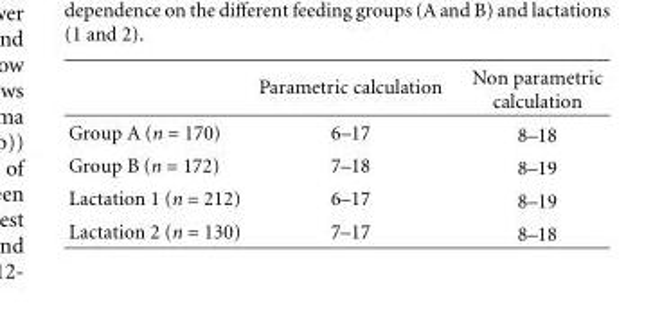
<table><thead><tr><td></td><td>Parametric calculation</td><td>Non parametric calculation</td></tr></thead><tbody><tr><td>Group A (n = 170)</td><td>6–17</td><td>8–18</td></tr><tr><td>Group B (n = 172)</td><td>7–18</td><td>8–19</td></tr><tr><td>Lactation 1 (n = 212)</td><td>6–17</td><td>8–19</td></tr><tr><td>Lactation 2 (n = 130)</td><td>7–17</td><td>8–18</td></tr></tbody></table>